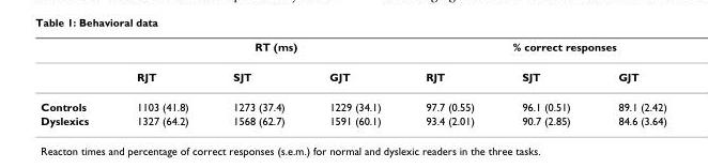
<table><thead><tr><td rowspan="2"></td><td colspan="3">RT (ms)</td><td colspan="3">% correct responses</td></tr><tr><td>RJT</td><td>SJT</td><td>GJT</td><td>RJT</td><td>SJT</td><td>GJT</td></tr></thead><tbody><tr><td>Controls</td><td>1103 (41.8)</td><td>1273 (37.4)</td><td>1229 (34.1)</td><td>97.7 (0.55)</td><td>96.1 (0.51)</td><td>89.1 (2.42)</td></tr><tr><td>Dyslexics</td><td>1327 (64.2)</td><td>1568 (62.7)</td><td>1591 (60.1)</td><td>93.4 (2.01)</td><td>90.7 (2.85)</td><td>84.6 (3.64)</td></tr></tbody></table>